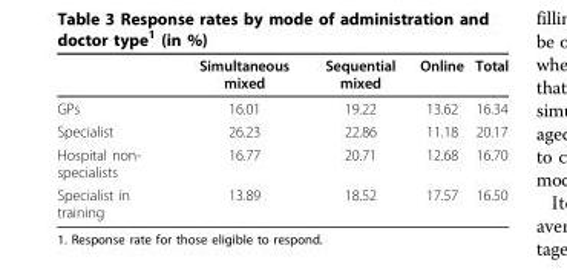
<table><thead><tr><td></td><td>Simultaneous mixed</td><td>Sequential mixed</td><td>Online</td><td>Total</td></tr></thead><tbody><tr><td>GPs</td><td>16.01</td><td>19.22</td><td>13.62</td><td>16.34</td></tr><tr><td>Specialist</td><td>26.23</td><td>22.86</td><td>11.18</td><td>20.17</td></tr><tr><td>Hospital non- specialists</td><td>16.77</td><td>20.71</td><td>12.68</td><td>16.70</td></tr><tr><td>Specialist in training</td><td>13.89</td><td>18.52</td><td>17.57</td><td>16.50</td></tr></tbody></table>